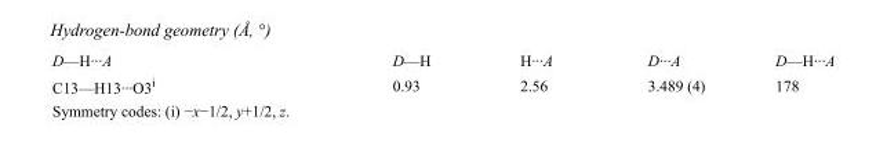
<table><tbody><tr><td>D—H···A</td><td>D—H</td><td>H···A</td><td>D···A</td><td>D—H···A</td></tr><tr><td>C13—H13···O3<sup>i</sup></td><td>0.93</td><td>2.56</td><td>3.489 (4)</td><td>178</td></tr></tbody></table>